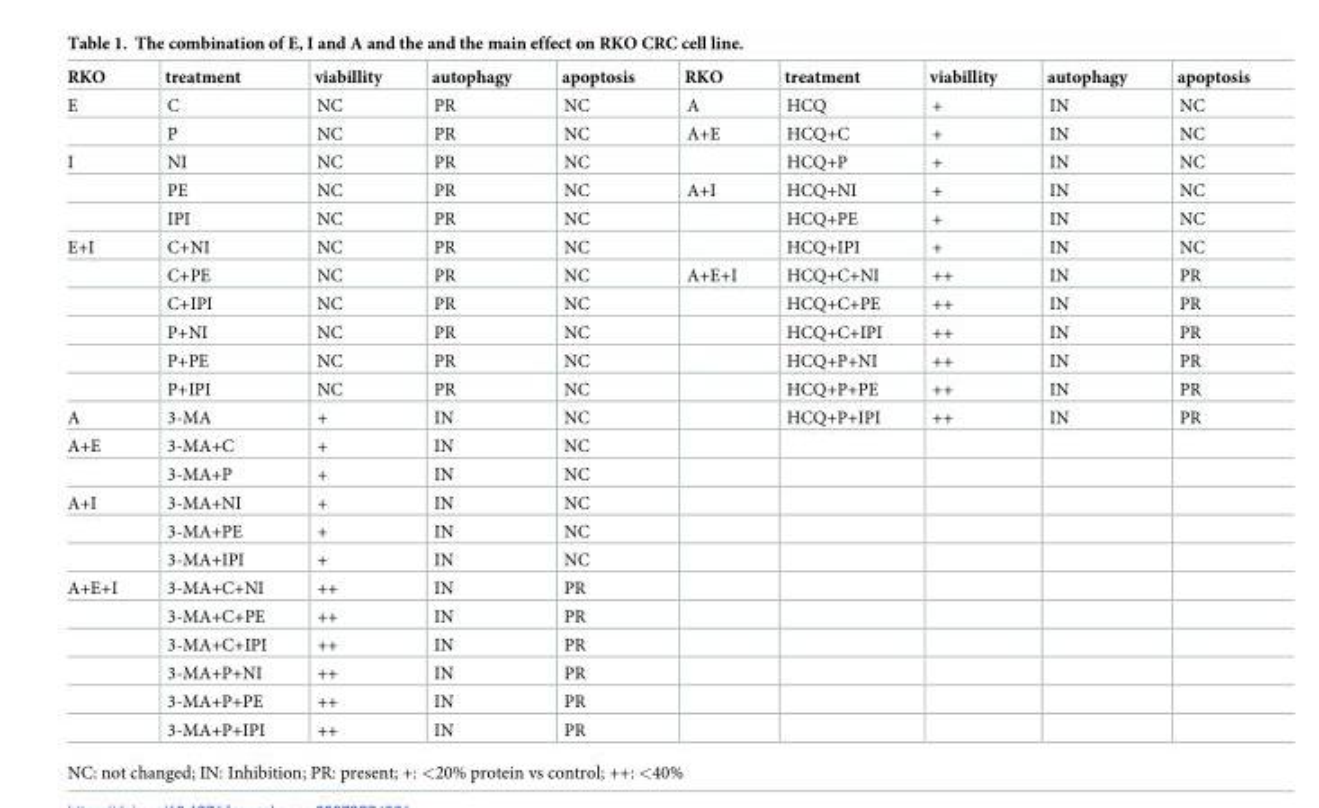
<table><thead><tr><td>RKO</td><td>treatment</td><td>viabillity</td><td>autophagy</td><td>apoptosis</td><td>RKO</td><td>treatment</td><td>viabillity</td><td>autophagy</td><td>apoptosis</td></tr></thead><tbody><tr><td rowspan="2">E</td><td>C</td><td>NC</td><td>PR</td><td>NC</td><td>A</td><td>HCQ</td><td>+</td><td>IN</td><td>NC</td></tr><tr><td>P</td><td>NC</td><td>PR</td><td>NC</td><td>A+E</td><td>HCQ+C</td><td>+</td><td>IN</td><td>NC</td></tr><tr><td rowspan="3">I</td><td>NI</td><td>NC</td><td>PR</td><td>NC</td><td></td><td>HCQ+P</td><td>+</td><td>IN</td><td>NC</td></tr><tr><td>PE</td><td>NC</td><td>PR</td><td>NC</td><td>A+I</td><td>HCQ+NI</td><td>+</td><td>IN</td><td>NC</td></tr><tr><td>IPI</td><td>NC</td><td>PR</td><td>NC</td><td></td><td>HCQ+PE</td><td>+</td><td>IN</td><td>NC</td></tr><tr><td rowspan="6">E+I</td><td>C+NI</td><td>NC</td><td>PR</td><td>NC</td><td></td><td>HCQ+IPI</td><td>+</td><td>IN</td><td>NC</td></tr><tr><td>C+PE</td><td>NC</td><td>PR</td><td>NC</td><td>A+E+I</td><td>HCQ+C+NI</td><td>++</td><td>IN</td><td>PR</td></tr><tr><td>C+IPI</td><td>NC</td><td>PR</td><td>NC</td><td></td><td>HCQ+C+PE</td><td>++</td><td>IN</td><td>PR</td></tr><tr><td>P+NI</td><td>NC</td><td>PR</td><td>NC</td><td></td><td>HCQ+C+IPI</td><td>++</td><td>IN</td><td>PR</td></tr><tr><td>P+PE</td><td>NC</td><td>PR</td><td>NC</td><td></td><td>HCQ+P+NI</td><td>++</td><td>IN</td><td>PR</td></tr><tr><td>P+IPI</td><td>NC</td><td>PR</td><td>NC</td><td></td><td>HCQ+P+PE</td><td>++</td><td>IN</td><td>PR</td></tr><tr><td>A</td><td>3-MA</td><td>+</td><td>IN</td><td>NC</td><td></td><td>HCQ+P+IPI</td><td>++</td><td>IN</td><td>PR</td></tr><tr><td rowspan="2">A+E</td><td>3-MA+C</td><td>+</td><td>IN</td><td>NC</td><td></td><td></td><td></td><td></td><td></td></tr><tr><td>3-MA+P</td><td>+</td><td>IN</td><td>NC</td><td></td><td></td><td></td><td></td><td></td></tr><tr><td rowspan="3">A+I</td><td>3-MA+NI</td><td>+</td><td>IN</td><td>NC</td><td></td><td></td><td></td><td></td><td></td></tr><tr><td>3-MA+PE</td><td>+</td><td>IN</td><td>NC</td><td></td><td></td><td></td><td></td><td></td></tr><tr><td>3-MA+IPI</td><td>+</td><td>IN</td><td>NC</td><td></td><td></td><td></td><td></td><td></td></tr><tr><td rowspan="6">A+E+I</td><td>3-MA+C+NI</td><td>++</td><td>IN</td><td>PR</td><td></td><td></td><td></td><td></td><td></td></tr><tr><td>3-MA+C+PE</td><td>++</td><td>IN</td><td>PR</td><td></td><td></td><td></td><td></td><td></td></tr><tr><td>3-MA+C+IPI</td><td>++</td><td>IN</td><td>PR</td><td></td><td></td><td></td><td></td><td></td></tr><tr><td>3-MA+P+NI</td><td>++</td><td>IN</td><td>PR</td><td></td><td></td><td></td><td></td><td></td></tr><tr><td>3-MA+P+PE</td><td>++</td><td>IN</td><td>PR</td><td></td><td></td><td></td><td></td><td></td></tr><tr><td>3-MA+P+IPI</td><td>++</td><td>IN</td><td>PR</td><td></td><td></td><td></td><td></td><td></td></tr></tbody></table>